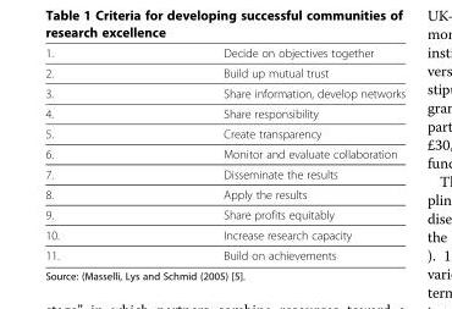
<table><tbody><tr><td>1.</td><td>Decide on objectives together</td></tr><tr><td>2.</td><td>Build up mutual trust</td></tr><tr><td>3.</td><td>Share information, develop networks</td></tr><tr><td>4.</td><td>Share responsibility</td></tr><tr><td>5.</td><td>Create transparency</td></tr><tr><td>6.</td><td>Monitor and evaluate collaboration</td></tr><tr><td>7.</td><td>Disseminate the results</td></tr><tr><td>8.</td><td>Apply the results</td></tr><tr><td>9.</td><td>Share profits equitably</td></tr><tr><td>10.</td><td>Increase research capacity</td></tr><tr><td>11.</td><td>Build on achievements</td></tr></tbody></table>